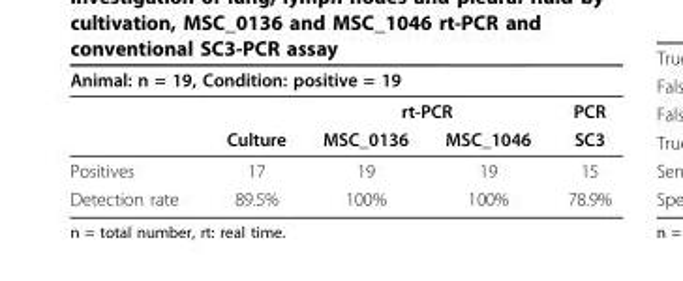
<table><thead><tr><td colspan="5">Animal: n = 19, Condition: positive = 19</td></tr><tr><td rowspan="2"></td><td rowspan="2">Culture</td><td colspan="2">rt-PCR</td><td rowspan="2">PCR SC3</td></tr><tr><td>MSC_0136</td><td>MSC_1046</td></tr></thead><tbody><tr><td>Positives</td><td>17</td><td>19</td><td>19</td><td>15</td></tr><tr><td>Detection rate</td><td>89.5%</td><td>100%</td><td>100%</td><td>78.9%</td></tr></tbody></table>